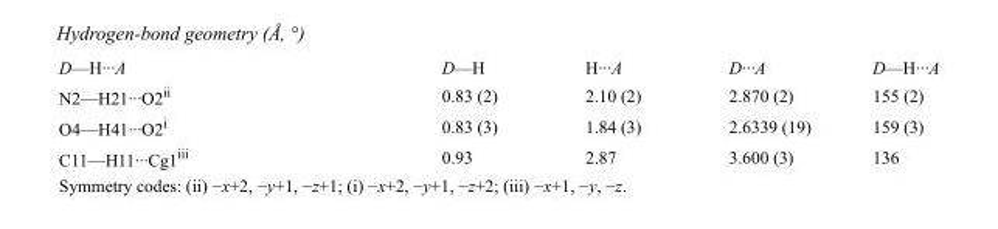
<table><tbody><tr><td>D—H···A</td><td>D—H</td><td>H···A</td><td>D···A</td><td>D—H···A</td></tr><tr><td>N2—H21···O2<sup>ii</sup></td><td>0.83 (2)</td><td>2.10 (2)</td><td>2.870 (2)</td><td>155 (2)</td></tr><tr><td>O4—H41···O2<sup>i</sup></td><td>0.83 (3)</td><td>1.84 (3)</td><td>2.6339 (19)</td><td>159 (3)</td></tr><tr><td>C11—H11···Cg1<sup>iii</sup></td><td>0.93</td><td>2.87</td><td>3.600 (3)</td><td>136</td></tr></tbody></table>